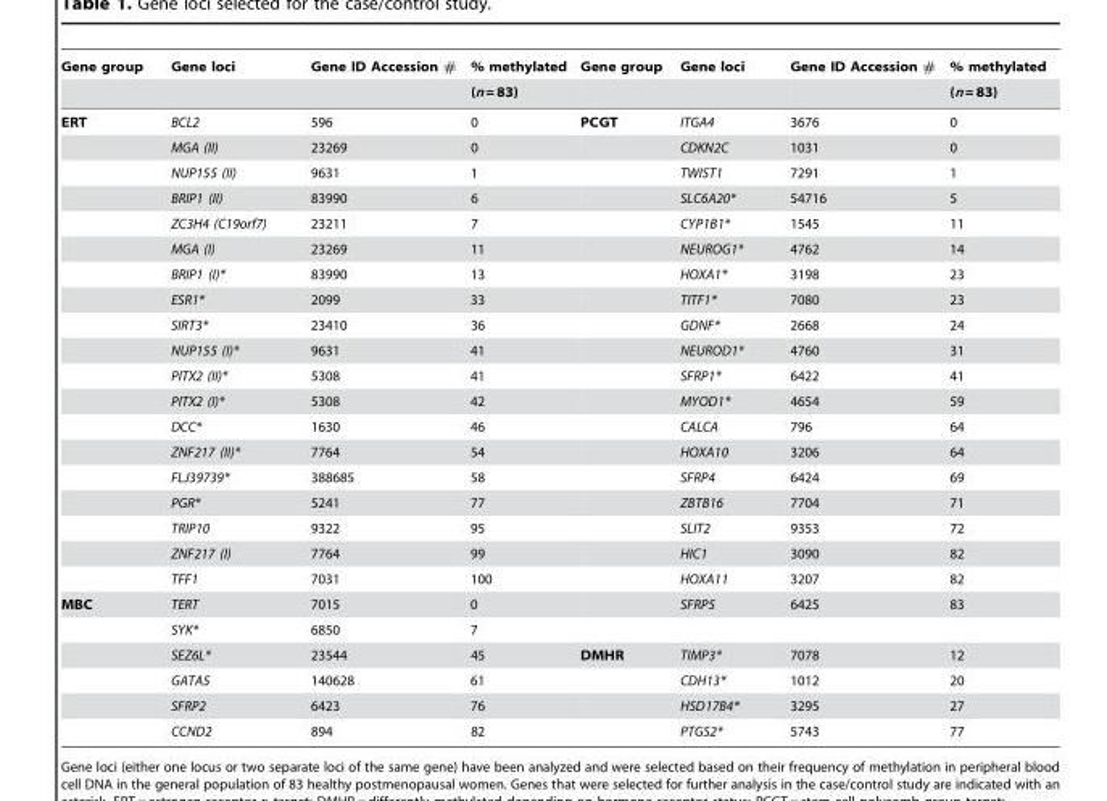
<table><thead><tr><td rowspan="2">Gene group</td><td rowspan="2">Gene loci</td><td rowspan="2">Gene ID Accession #</td><td rowspan="2">% methylated (n = 83)</td><td rowspan="2">Gene group</td><td rowspan="2">Gene loci</td><td rowspan="2">Gene ID Accession #</td><td rowspan="2">% methylated (n = 83)</td></tr><tr></tr></thead><tbody><tr><td rowspan="19">ERT</td><td>BCL2</td><td>596</td><td>0</td><td>PCGT</td><td>ITGA4</td><td>3676</td><td>0</td></tr><tr><td>MGA (II)</td><td>23269</td><td>0</td><td></td><td>CDKN2C</td><td>1031</td><td>0</td></tr><tr><td>NUP155 (II)</td><td>9631</td><td>1</td><td></td><td>TWIST1</td><td>7291</td><td>1</td></tr><tr><td>BRIP1 (II)</td><td>83990</td><td>6</td><td></td><td>SLC6A20*</td><td>54716</td><td>5</td></tr><tr><td>ZC3H4 (C19orf7)</td><td>23211</td><td>7</td><td></td><td>CYP1B1*</td><td>1545</td><td>11</td></tr><tr><td>MGA (I)</td><td>23269</td><td>11</td><td></td><td>NEUROG1*</td><td>4762</td><td>14</td></tr><tr><td>BRIP1 (I)*</td><td>83990</td><td>13</td><td></td><td>HOXA1*</td><td>3198</td><td>23</td></tr><tr><td>ESR1*</td><td>2099</td><td>33</td><td></td><td>TITF1*</td><td>7080</td><td>23</td></tr><tr><td>SIRT3*</td><td>23410</td><td>36</td><td></td><td>GDNF*</td><td>2668</td><td>24</td></tr><tr><td>NUP155 (I)*</td><td>9631</td><td>41</td><td></td><td>NEUROD1*</td><td>4760</td><td>31</td></tr><tr><td>PITX2 (II)*</td><td>5308</td><td>41</td><td></td><td>SFRP1*</td><td>6422</td><td>41</td></tr><tr><td>PITX2 (I)*</td><td>5308</td><td>42</td><td></td><td>MYOD1*</td><td>4654</td><td>59</td></tr><tr><td>DCC*</td><td>1630</td><td>46</td><td></td><td>CALCA</td><td>796</td><td>64</td></tr><tr><td>ZNF217 (II)*</td><td>7764</td><td>54</td><td></td><td>HOXA10</td><td>3206</td><td>64</td></tr><tr><td>FLJ39739*</td><td>388685</td><td>58</td><td></td><td>SFRP4</td><td>6424</td><td>69</td></tr><tr><td>PGR*</td><td>5241</td><td>77</td><td></td><td>ZBTB16</td><td>7704</td><td>71</td></tr><tr><td>TRIP10</td><td>9322</td><td>95</td><td></td><td>SLIT2</td><td>9353</td><td>72</td></tr><tr><td>ZNF217 (I)</td><td>7764</td><td>99</td><td></td><td>HIC1</td><td>3090</td><td>82</td></tr><tr><td>TFF1</td><td>7031</td><td>100</td><td></td><td>HOXA11</td><td>3207</td><td>82</td></tr><tr><td rowspan="6">MBC</td><td>TERT</td><td>7015</td><td>0</td><td></td><td>SFRP5</td><td>6425</td><td>83</td></tr><tr><td>SYK*</td><td>6850</td><td>7</td><td></td><td></td><td></td><td></td></tr><tr><td>SEZ6L*</td><td>23544</td><td>45</td><td>DMHR</td><td>TIMP3*</td><td>7078</td><td>12</td></tr><tr><td>GATA5</td><td>140628</td><td>61</td><td></td><td>CDH13*</td><td>1012</td><td>20</td></tr><tr><td>SFRP2</td><td>6423</td><td>76</td><td></td><td>HSD17B4*</td><td>3295</td><td>27</td></tr><tr><td>CCND2</td><td>894</td><td>82</td><td></td><td>PTGS2*</td><td>5743</td><td>77</td></tr></tbody></table>